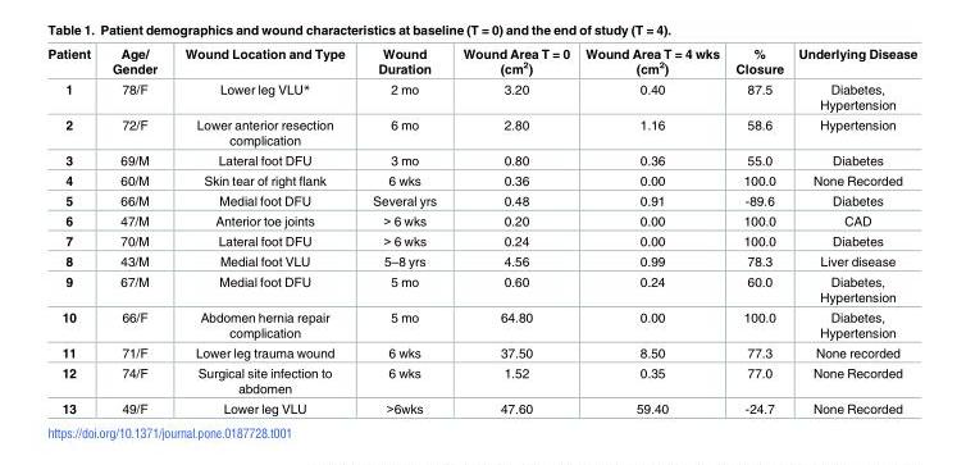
<table><thead><tr><td>Patient</td><td>Age/ Gender</td><td>Wound Location and Type</td><td>Wound Duration</td><td>Wound Area T = 0 (cm<sup>2</sup>)</td><td>Wound Area T = 4 wks (cm<sup>2</sup>)</td><td>% Closure</td><td>Underlying Disease</td></tr></thead><tbody><tr><td>1</td><td>78/F</td><td>Lower leg VLU*</td><td>2 mo</td><td>3.20</td><td>0.40</td><td>87.5</td><td>Diabetes, Hypertension</td></tr><tr><td>2</td><td>72/F</td><td>Lower anterior resection complication</td><td>6 mo</td><td>2.80</td><td>1.16</td><td>58.6</td><td>Hypertension</td></tr><tr><td>3</td><td>69/M</td><td>Lateral foot DFU</td><td>3 mo</td><td>0.80</td><td>0.36</td><td>55.0</td><td>Diabetes</td></tr><tr><td>4</td><td>60/M</td><td>Skin tear of right flank</td><td>6 wks</td><td>0.36</td><td>0.00</td><td>100.0</td><td>None Recorded</td></tr><tr><td>5</td><td>66/M</td><td>Medial foot DFU</td><td>Several yrs</td><td>0.48</td><td>0.91</td><td>-89.6</td><td>Diabetes</td></tr><tr><td>6</td><td>47/M</td><td>Anterior toe joints</td><td>&gt; 6 wks</td><td>0.20</td><td>0.00</td><td>100.0</td><td>CAD</td></tr><tr><td>7</td><td>70/M</td><td>Lateral foot DFU</td><td>&gt; 6 wks</td><td>0.24</td><td>0.00</td><td>100.0</td><td>Diabetes</td></tr><tr><td>8</td><td>43/M</td><td>Medial foot VLU</td><td>5–8 yrs</td><td>4.56</td><td>0.99</td><td>78.3</td><td>Liver disease</td></tr><tr><td>9</td><td>67/M</td><td>Medial foot DFU</td><td>5 mo</td><td>0.60</td><td>0.24</td><td>60.0</td><td>Diabetes, Hypertension</td></tr><tr><td>10</td><td>66/F</td><td>Abdomen hernia repair complication</td><td>5 mo</td><td>64.80</td><td>0.00</td><td>100.0</td><td>Diabetes, Hypertension</td></tr><tr><td>11</td><td>71/F</td><td>Lower leg trauma wound</td><td>6 wks</td><td>37.50</td><td>8.50</td><td>77.3</td><td>None recorded</td></tr><tr><td>12</td><td>74/F</td><td>Surgical site infection to abdomen</td><td>6 wks</td><td>1.52</td><td>0.35</td><td>77.0</td><td>None Recorded</td></tr><tr><td>13</td><td>49/F</td><td>Lower leg VLU</td><td>&gt;6wks</td><td>47.60</td><td>59.40</td><td>-24.7</td><td>None Recorded</td></tr></tbody></table>